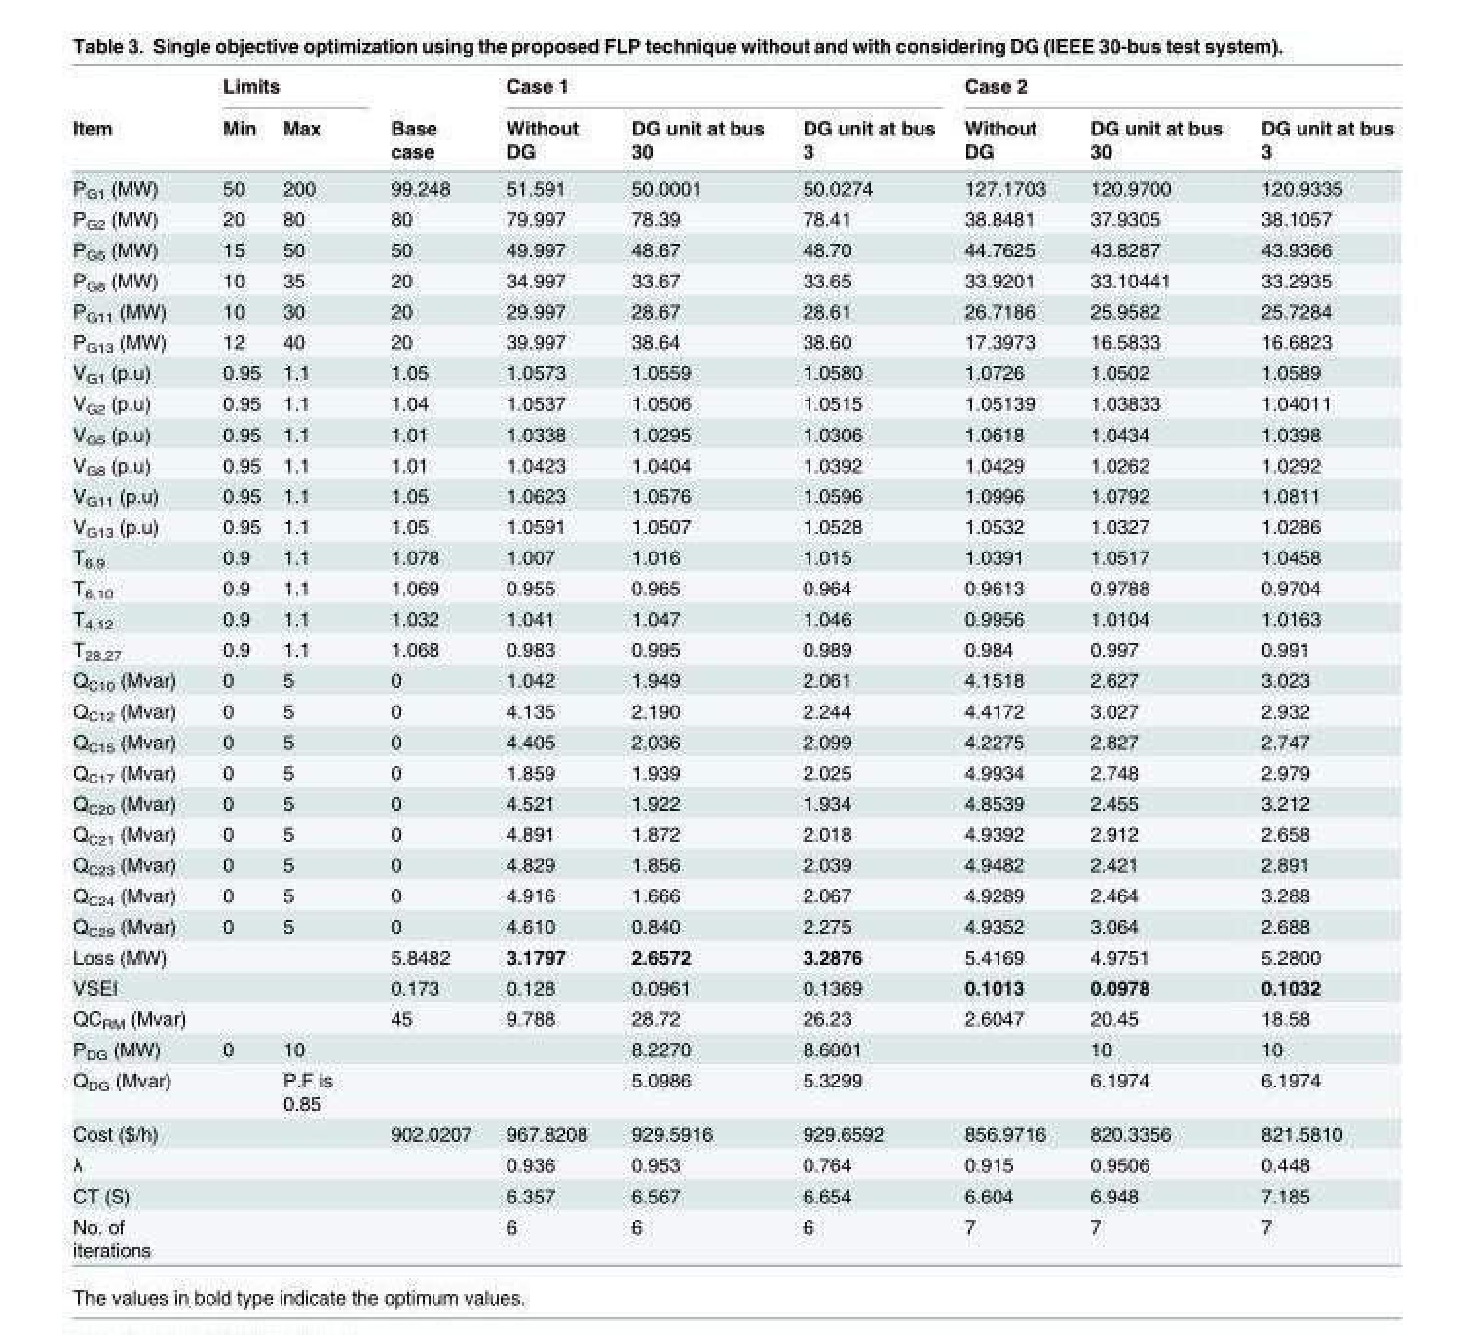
<table><thead><tr><td rowspan="2">Item</td><td colspan="2">Limits</td><td rowspan="2">Base case</td><td colspan="3">Case 1</td><td colspan="3">Case 2</td></tr><tr><td>Min</td><td>Max</td><td>Without DG</td><td>DG unit at bus 30</td><td>DG unit at bus 3</td><td>Without DG</td><td>DG unit at bus 30</td><td>DG unit at bus 3</td></tr></thead><tbody><tr><td>P<sub>G1</sub> (MW)</td><td>50</td><td>200</td><td>99.248</td><td>51.591</td><td>50.0001</td><td>50.0274</td><td>127.1703</td><td>120.9700</td><td>120.9335</td></tr><tr><td>P<sub>G2</sub> (MW)</td><td>20</td><td>80</td><td>80</td><td>79.997</td><td>78.39</td><td>78.41</td><td>38.8481</td><td>37.9305</td><td>38.1057</td></tr><tr><td>P<sub>G5</sub> (MW)</td><td>15</td><td>50</td><td>50</td><td>49.997</td><td>48.67</td><td>48.70</td><td>44.7625</td><td>43.8287</td><td>43.9366</td></tr><tr><td>P<sub>G8</sub> (MW)</td><td>10</td><td>35</td><td>20</td><td>34.997</td><td>33.67</td><td>33.65</td><td>33.9201</td><td>33.10441</td><td>33.2935</td></tr><tr><td>P<sub>G11</sub> (MW)</td><td>10</td><td>30</td><td>20</td><td>29.997</td><td>28.67</td><td>28.61</td><td>26.7186</td><td>25.9582</td><td>25.7284</td></tr><tr><td>P<sub>G13</sub> (MW)</td><td>12</td><td>40</td><td>20</td><td>39.997</td><td>38.64</td><td>38.60</td><td>17.3973</td><td>16.5833</td><td>16.6823</td></tr><tr><td>V<sub>G1</sub> (p.u)</td><td>0.95</td><td>1.1</td><td>1.05</td><td>1.0573</td><td>1.0559</td><td>1.0580</td><td>1.0726</td><td>1.0502</td><td>1.0589</td></tr><tr><td>V<sub>G2</sub> (p.u)</td><td>0.95</td><td>1.1</td><td>1.04</td><td>1.0537</td><td>1.0506</td><td>1.0515</td><td>1.05139</td><td>1.03833</td><td>1.04011</td></tr><tr><td>V<sub>G5</sub> (p.u)</td><td>0.95</td><td>1.1</td><td>1.01</td><td>1.0338</td><td>1.0295</td><td>1.0306</td><td>1.0618</td><td>1.0434</td><td>1.0398</td></tr><tr><td>V<sub>G8</sub> (p.u)</td><td>0.95</td><td>1.1</td><td>1.01</td><td>1.0423</td><td>1.0404</td><td>1.0392</td><td>1.0429</td><td>1.0262</td><td>1.0292</td></tr><tr><td>V<sub>G11</sub> (p.u)</td><td>0.95</td><td>1.1</td><td>1.05</td><td>1.0623</td><td>1.0576</td><td>1.0596</td><td>1.0996</td><td>1.0792</td><td>1.0811</td></tr><tr><td>V<sub>G13</sub> (p.u)</td><td>0.95</td><td>1.1</td><td>1.05</td><td>1.0591</td><td>1.0507</td><td>1.0528</td><td>1.0532</td><td>1.0327</td><td>1.0286</td></tr><tr><td>T<sub>6,9</sub></td><td>0.9</td><td>1.1</td><td>1.078</td><td>1.007</td><td>1.016</td><td>1.015</td><td>1.0391</td><td>1.0517</td><td>1.0458</td></tr><tr><td>T<sub>6,10</sub></td><td>0.9</td><td>1.1</td><td>1.069</td><td>0.955</td><td>0.965</td><td>0.964</td><td>0.9613</td><td>0.9788</td><td>0.9704</td></tr><tr><td>T<sub>4,12</sub></td><td>0.9</td><td>1.1</td><td>1.032</td><td>1.041</td><td>1.047</td><td>1.046</td><td>0.9956</td><td>1.0104</td><td>1.0163</td></tr><tr><td>T<sub>28,27</sub></td><td>0.9</td><td>1.1</td><td>1.068</td><td>0.983</td><td>0.995</td><td>0.989</td><td>0.984</td><td>0.997</td><td>0.991</td></tr><tr><td>Q<sub>C10</sub> (Mvar)</td><td>0</td><td>5</td><td>0</td><td>1.042</td><td>1.949</td><td>2.061</td><td>4.1518</td><td>2.627</td><td>3.023</td></tr><tr><td>Q<sub>C12</sub> (Mvar)</td><td>0</td><td>5</td><td>0</td><td>4.135</td><td>2.190</td><td>2.244</td><td>4.4172</td><td>3.027</td><td>2.932</td></tr><tr><td>Q<sub>C15</sub> (Mvar)</td><td>0</td><td>5</td><td>0</td><td>4.405</td><td>2.036</td><td>2.099</td><td>4.2275</td><td>2.827</td><td>2.747</td></tr><tr><td>Q<sub>C17</sub> (Mvar)</td><td>0</td><td>5</td><td>0</td><td>1.859</td><td>1.939</td><td>2.025</td><td>4.9934</td><td>2.748</td><td>2.979</td></tr><tr><td>Q<sub>C20</sub> (Mvar)</td><td>0</td><td>5</td><td>0</td><td>4.521</td><td>1.922</td><td>1.934</td><td>4.8539</td><td>2.455</td><td>3.212</td></tr><tr><td>Q<sub>C21</sub> (Mvar)</td><td>0</td><td>5</td><td>0</td><td>4.891</td><td>1.872</td><td>2.018</td><td>4.9392</td><td>2.912</td><td>2.658</td></tr><tr><td>Q<sub>C23</sub> (Mvar)</td><td>0</td><td>5</td><td>0</td><td>4.829</td><td>1.856</td><td>2.039</td><td>4.9482</td><td>2.421</td><td>2.891</td></tr><tr><td>Q<sub>C24</sub> (Mvar)</td><td>0</td><td>5</td><td>0</td><td>4.916</td><td>1.666</td><td>2.067</td><td>4.9289</td><td>2.464</td><td>3.288</td></tr><tr><td>Q<sub>C29</sub> (Mvar)</td><td>0</td><td>5</td><td>0</td><td>4.610</td><td>0.840</td><td>2.275</td><td>4.9352</td><td>3.064</td><td>2.688</td></tr><tr><td>Loss (MW)</td><td></td><td></td><td>5.8482</td><td>3.1797</td><td>2.6572</td><td>3.2876</td><td>5.4169</td><td>4.9751</td><td>5.2800</td></tr><tr><td>VSEI</td><td></td><td></td><td>0.173</td><td>0.128</td><td>0.0961</td><td>0.1369</td><td>0.1013</td><td>0.0978</td><td>0.1032</td></tr><tr><td>QC<sub>RM</sub> (Mvar)</td><td></td><td></td><td>45</td><td>9.788</td><td>28.72</td><td>26.23</td><td>2.6047</td><td>20.45</td><td>18.58</td></tr><tr><td>P<sub>DG</sub> (MW)</td><td>0</td><td>10</td><td></td><td></td><td>8.2270</td><td>8.6001</td><td></td><td>10</td><td>10</td></tr><tr><td>Q<sub>DG</sub> (Mvar)</td><td></td><td>P.F is 0.85</td><td></td><td></td><td>5.0986</td><td>5.3299</td><td></td><td>6.1974</td><td>6.1974</td></tr><tr><td>Cost ($/h)</td><td></td><td></td><td>902.0207</td><td>967.8208</td><td>929.5916</td><td>929.6592</td><td>856.9716</td><td>820.3356</td><td>821.5810</td></tr><tr><td>λ</td><td></td><td></td><td></td><td>0.936</td><td>0.953</td><td>0.764</td><td>0.915</td><td>0.9506</td><td>0.448</td></tr><tr><td>CT (S)</td><td></td><td></td><td></td><td>6.357</td><td>6.567</td><td>6.654</td><td>6.604</td><td>6.948</td><td>7.185</td></tr><tr><td>No. of iterations</td><td></td><td></td><td></td><td>6</td><td>6</td><td>6</td><td>7</td><td>7</td><td>7</td></tr></tbody></table>